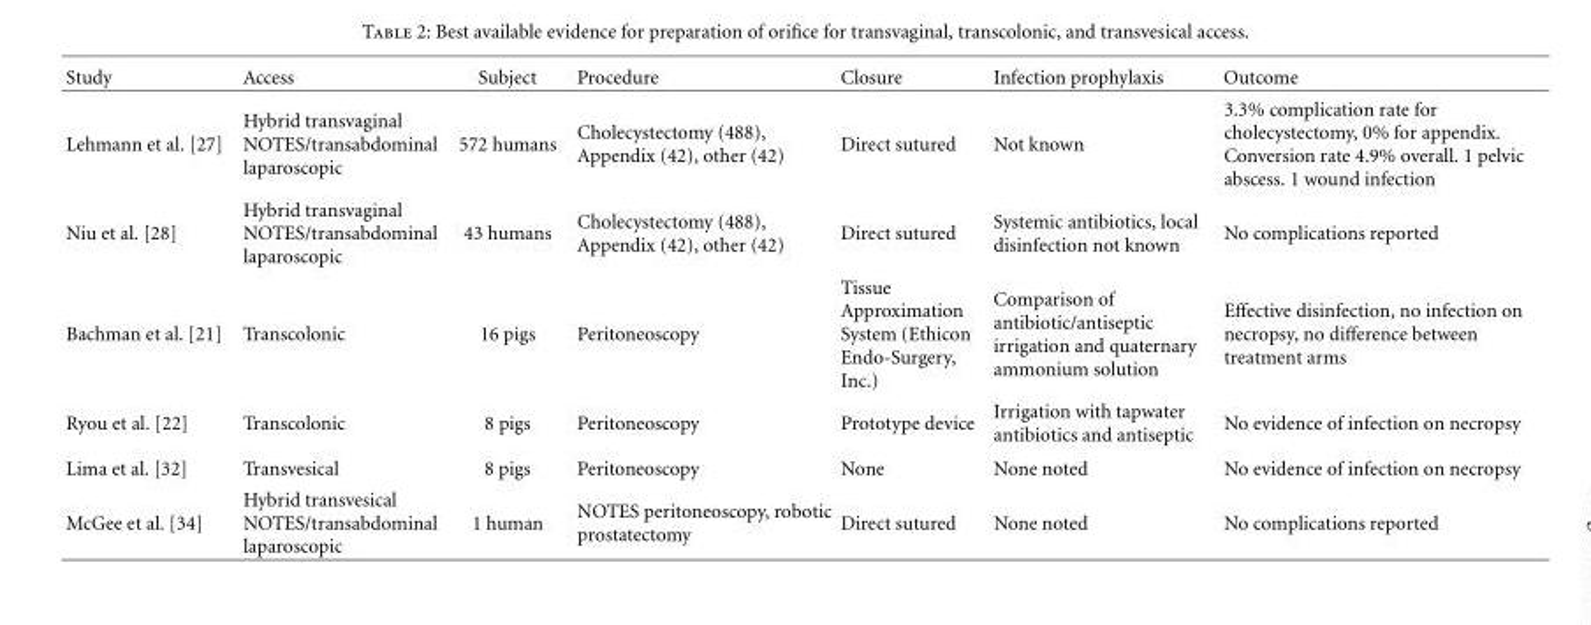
<table><thead><tr><td>Study</td><td>Access</td><td>Subject</td><td>Procedure</td><td>Closure</td><td>Infection prophylaxis</td><td>Outcome</td></tr></thead><tbody><tr><td>Lehmann et al. [27]</td><td>Hybrid transvaginal NOTES/transabdominal laparoscopic</td><td>572 humans</td><td>Cholecystectomy (488), Appendix (42), other (42)</td><td>Direct sutured</td><td>Not known</td><td>3.3% complication rate for cholecystectomy, 0% for appendix. Conversion rate 4.9% overall. 1 pelvic abscess. 1 wound infection</td></tr><tr><td>Niu et al. [28]</td><td>Hybrid transvaginal NOTES/transabdominal laparoscopic</td><td>43 humans</td><td>Cholecystectomy (488), Appendix (42), other (42)</td><td>Direct sutured</td><td>Systemic antibiotics, local disinfection not known</td><td>No complications reported</td></tr><tr><td>Bachman et al. [21]</td><td>Transcolonic</td><td>16 pigs</td><td>Peritoneoscopy</td><td>Tissue Approximation System (Ethicon Endo-Surgery, Inc.)</td><td>Comparison of antibiotic/antiseptic irrigation and quaternary ammonium solution</td><td>Effective disinfection, no infection on necropsy, no difference between treatment arms</td></tr><tr><td>Ryou et al. [22]</td><td>Transcolonic</td><td>8 pigs</td><td>Peritoneoscopy</td><td>Prototype device</td><td>Irrigation with tapwater antibiotics and antiseptic</td><td>No evidence of infection on necropsy</td></tr><tr><td>Lima et al. [32]</td><td>Transvesical</td><td>8 pigs</td><td>Peritoneoscopy</td><td>None</td><td>None noted</td><td>No evidence of infection on necropsy</td></tr><tr><td>McGee et al. [34]</td><td>Hybrid transvesical NOTES/transabdominal laparoscopic</td><td>1 human</td><td>NOTES peritoneoscopy, robotic prostatectomy</td><td>Direct sutured</td><td>None noted</td><td>No complications reported</td></tr></tbody></table>